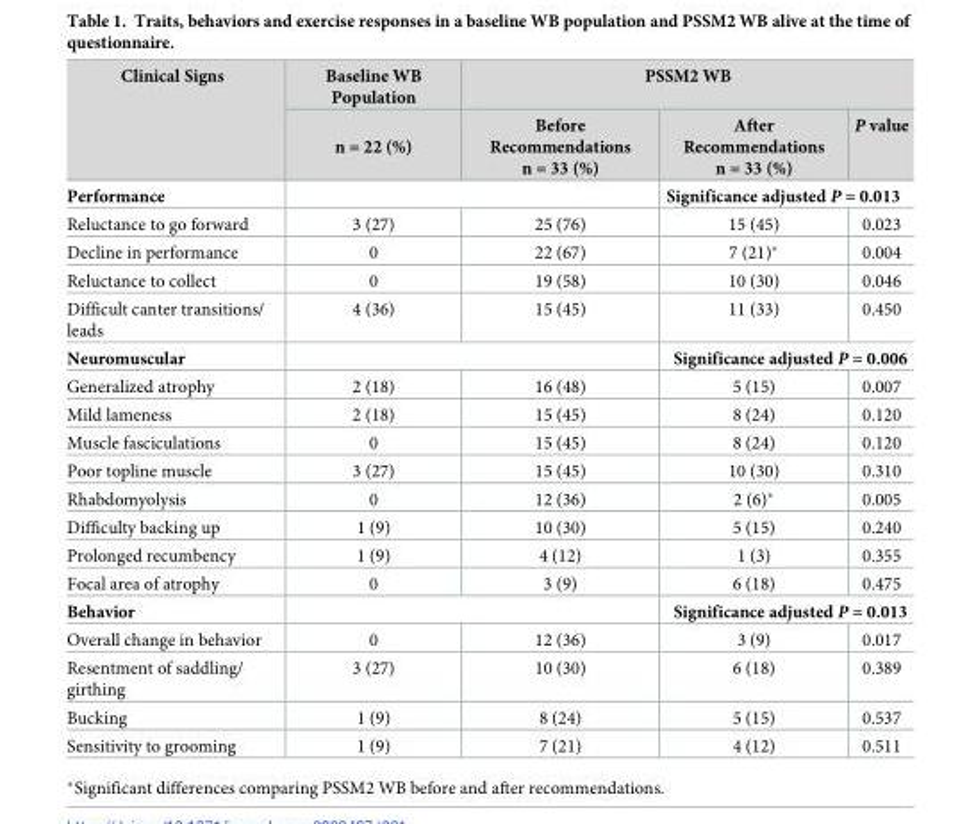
<table><thead><tr><td rowspan="2">Clinical Signs</td><td rowspan="2">Baseline WB Population n = 22 (%)</td><td colspan="3">PSSM2 WB</td></tr><tr><td>Before Recommendations n = 33 (%)</td><td>After Recommendations n = 33 (%)</td><td>P value</td></tr></thead><tbody><tr><td>Performance</td><td colspan="2"></td><td colspan="2">Significance adjusted P = 0.013</td></tr><tr><td>Reluctance to go forward</td><td>3 (27)</td><td>25 (76)</td><td>15 (45)</td><td>0.023</td></tr><tr><td>Decline in performance</td><td>0</td><td>22 (67)</td><td>7 (21)*</td><td>0.004</td></tr><tr><td>Reluctance to collect</td><td>0</td><td>19 (58)</td><td>10 (30)</td><td>0.046</td></tr><tr><td>Difficult canter transitions/ leads</td><td>4 (36)</td><td>15 (45)</td><td>11 (33)</td><td>0.450</td></tr><tr><td>Neuromuscular</td><td colspan="2"></td><td colspan="2">Significance adjusted P = 0.006</td></tr><tr><td>Generalized atrophy</td><td>2 (18)</td><td>16 (48)</td><td>5 (15)</td><td>0.007</td></tr><tr><td>Mild lameness</td><td>2 (18)</td><td>15 (45)</td><td>8 (24)</td><td>0.120</td></tr><tr><td>Muscle fasciculations</td><td>0</td><td>15 (45)</td><td>8 (24)</td><td>0.120</td></tr><tr><td>Poor topline muscle</td><td>3 (27)</td><td>15 (45)</td><td>10 (30)</td><td>0.310</td></tr><tr><td>Rhabdomyolysis</td><td>0</td><td>12 (36)</td><td>2 (6)*</td><td>0.005</td></tr><tr><td>Difficulty backing up</td><td>1 (9)</td><td>10 (30)</td><td>5 (15)</td><td>0.240</td></tr><tr><td>Prolonged recumbency</td><td>1 (9)</td><td>4 (12)</td><td>1 (3)</td><td>0.355</td></tr><tr><td>Focal area of atrophy</td><td>0</td><td>3 (9)</td><td>6 (18)</td><td>0.475</td></tr><tr><td>Behavior</td><td colspan="2"></td><td colspan="2">Significance adjusted P = 0.013</td></tr><tr><td>Overall change in behavior</td><td>0</td><td>12 (36)</td><td>3 (9)</td><td>0.017</td></tr><tr><td>Resentment of saddling/ girthing</td><td>3 (27)</td><td>10 (30)</td><td>6 (18)</td><td>0.389</td></tr><tr><td>Bucking</td><td>1 (9)</td><td>8 (24)</td><td>5 (15)</td><td>0.537</td></tr><tr><td>Sensitivity to grooming</td><td>1 (9)</td><td>7 (21)</td><td>4 (12)</td><td>0.511</td></tr></tbody></table>